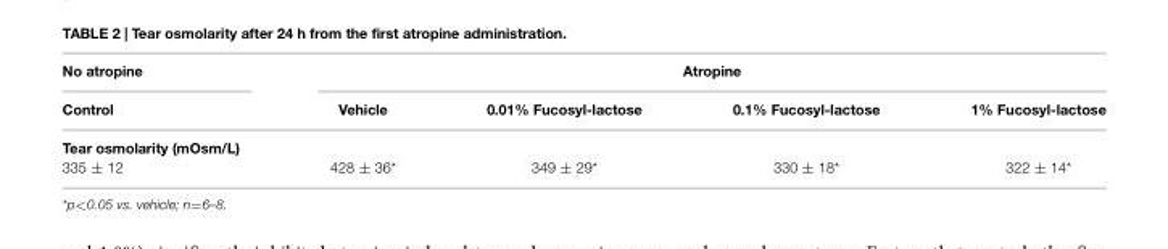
<table><thead><tr><td rowspan="2">No atropine Control</td><td colspan="4">Atropine</td></tr><tr><td>Vehicle</td><td>0.01% Fucosyl-lactose</td><td>0.1% Fucosyl-lactose</td><td>1% Fucosyl-lactose</td></tr></thead><tbody><tr><td colspan="5">Tear osmolarity (mOsm/L)</td></tr><tr><td>335 ± 12</td><td>428 ± 36*</td><td>349 ± 29*</td><td>330 ± 18*</td><td>322 ± 14*</td></tr></tbody></table>